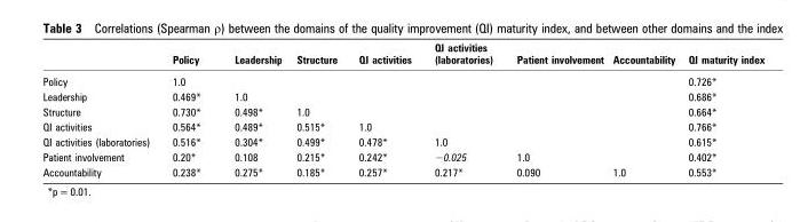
<table><thead><tr><td></td><td>Policy</td><td>Leadership</td><td>Structure</td><td>QI activities</td><td>QI activities (laboratories)</td><td>Patient involvement</td><td>Accountability</td><td>QI maturity index</td></tr></thead><tbody><tr><td>Policy</td><td>1.0</td><td></td><td></td><td></td><td></td><td></td><td></td><td>0.726*</td></tr><tr><td>Leadership</td><td>0.469*</td><td>1.0</td><td></td><td></td><td></td><td></td><td></td><td>0.686*</td></tr><tr><td>Structure</td><td>0.730*</td><td>0.498*</td><td>1.0</td><td></td><td></td><td></td><td></td><td>0.664*</td></tr><tr><td>QI activities</td><td>0.564*</td><td>0.489*</td><td>0.515*</td><td>1.0</td><td></td><td></td><td></td><td>0.766*</td></tr><tr><td>QI activities (laboratories)</td><td>0.516*</td><td>0.304*</td><td>0.499*</td><td>0.478*</td><td>1.0</td><td></td><td></td><td>0.615*</td></tr><tr><td>Patient involvement</td><td>0.20*</td><td>0.108</td><td>0.215*</td><td>0.242*</td><td>−0.025</td><td>1.0</td><td></td><td>0.402*</td></tr><tr><td>Accountability</td><td>0.238*</td><td>0.275*</td><td>0.185*</td><td>0.257*</td><td>0.217*</td><td>0.090</td><td>1.0</td><td>0.553*</td></tr></tbody></table>